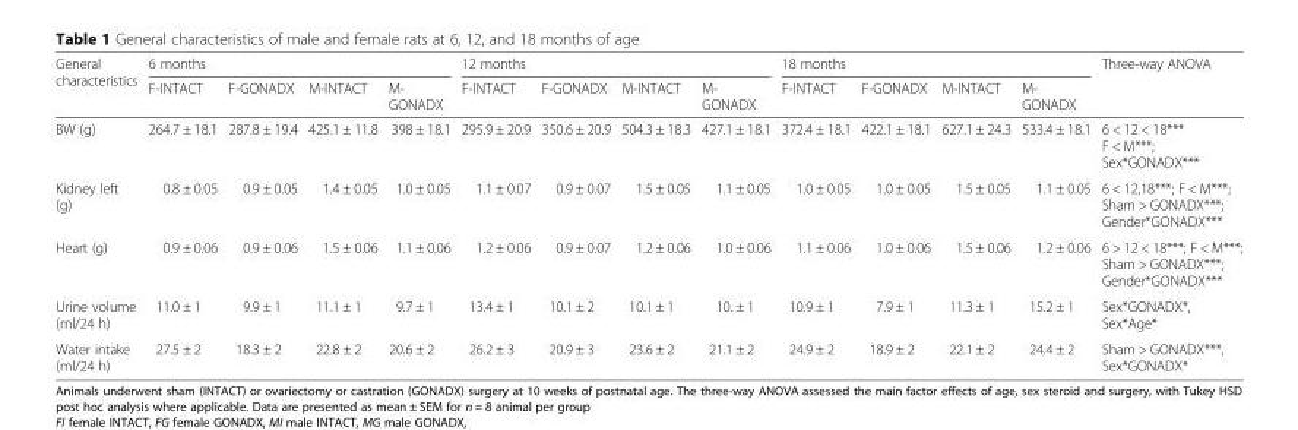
<table><thead><tr><td rowspan="2">General characteristics</td><td colspan="4">6 months</td><td colspan="4">12 months</td><td colspan="4">18 months</td><td rowspan="2">Three-way ANOVA</td></tr><tr><td>F-INTACT</td><td>F-GONADX</td><td>M-INTACT</td><td>M- GONADX</td><td>F-INTACT</td><td>F-GONADX</td><td>M-INTACT</td><td>M- GONADX</td><td>F-INTACT</td><td>F-GONADX</td><td>M-INTACT</td><td>M- GONADX</td></tr></thead><tbody><tr><td>BW (g)</td><td>264.7 ± 18.1</td><td>287.8 ± 19.4</td><td>425.1 ± 11.8</td><td>398 ± 18.1</td><td>295.9 ± 20.9</td><td>350.6 ± 20.9</td><td>504.3 ± 18.3</td><td>427.1 ± 18.1</td><td>372.4 ± 18.1</td><td>422.1 ± 18.1</td><td>627.1 ± 24.3</td><td>533.4 ± 18.1</td><td>6 &lt; 12 &lt; 18*** F &lt; M***; Sex*GONADX***</td></tr><tr><td>Kidney left (g)</td><td>0.8 ± 0.05</td><td>0.9 ± 0.05</td><td>1.4 ± 0.05</td><td>1.0 ± 0.05</td><td>1.1 ± 0.07</td><td>0.9 ± 0.07</td><td>1.5 ± 0.05</td><td>1.1 ± 0.05</td><td>1.0 ± 0.05</td><td>1.0 ± 0.05</td><td>1.5 ± 0.05</td><td>1.1 ± 0.05</td><td>6 &lt; 12,18***; F &lt; M***; Sham &gt; GONADX***; Gender*GONADX***</td></tr><tr><td>Heart (g)</td><td>0.9 ± 0.06</td><td>0.9 ± 0.06</td><td>1.5 ± 0.06</td><td>1.1 ± 0.06</td><td>1.2 ± 0.06</td><td>0.9 ± 0.07</td><td>1.2 ± 0.06</td><td>1.0 ± 0.06</td><td>1.1 ± 0.06</td><td>1.0 ± 0.06</td><td>1.5 ± 0.06</td><td>1.2 ± 0.06</td><td>6 &gt; 12 &lt; 18***; F &lt; M***; Sham &gt; GONADX***; Gender*GONADX***</td></tr><tr><td>Urine volume (ml/24 h)</td><td>11.0 ± 1</td><td>9.9 ± 1</td><td>11.1 ± 1</td><td>9.7 ± 1</td><td>13.4 ± 1</td><td>10.1 ± 2</td><td>10.1 ± 1</td><td>10. ± 1</td><td>10.9 ± 1</td><td>7.9 ± 1</td><td>11.3 ± 1</td><td>15.2 ± 1</td><td>Sex*GONADX*, Sex*Age*</td></tr><tr><td>Water intake (ml/24 h)</td><td>27.5 ± 2</td><td>18.3 ± 2</td><td>22.8 ± 2</td><td>20.6 ± 2</td><td>26.2 ± 3</td><td>20.9 ± 3</td><td>23.6 ± 2</td><td>21.1 ± 2</td><td>24.9 ± 2</td><td>18.9 ± 2</td><td>22.1 ± 2</td><td>24.4 ± 2</td><td>Sham &gt; GONADX***, Sex*GONADX*</td></tr></tbody></table>